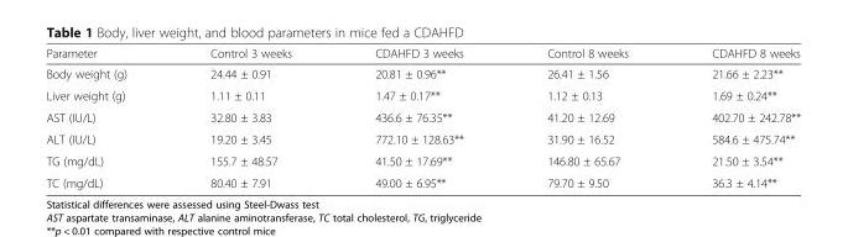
<table><thead><tr><td>Parameter</td><td>Control 3 weeks</td><td>CDAHFD 3 weeks</td><td>Control 8 weeks</td><td>CDAHFD 8 weeks</td></tr></thead><tbody><tr><td>Body weight (g)</td><td>24.44 ± 0.91</td><td>20.81 ± 0.96**</td><td>26.41 ± 1.56</td><td>21.66 ± 2.23**</td></tr><tr><td>Liver weight (g)</td><td>1.11 ± 0.11</td><td>1.47 ± 0.17**</td><td>1.12 ± 0.13</td><td>1.69 ± 0.24**</td></tr><tr><td>AST (IU/L)</td><td>32.80 ± 3.83</td><td>436.6 ± 76.35**</td><td>41.20 ± 12.69</td><td>402.70 ± 242.78**</td></tr><tr><td>ALT (IU/L)</td><td>19.20 ± 3.45</td><td>772.10 ± 128.63**</td><td>31.90 ± 16.52</td><td>584.6 ± 475.74**</td></tr><tr><td>TG (mg/dL)</td><td>155.7 ± 48.57</td><td>41.50 ± 17.69**</td><td>146.80 ± 65.67</td><td>21.50 ± 3.54**</td></tr><tr><td>TC (mg/dL)</td><td>80.40 ± 7.91</td><td>49.00 ± 6.95**</td><td>79.70 ± 9.50</td><td>36.3 ± 4.14**</td></tr></tbody></table>